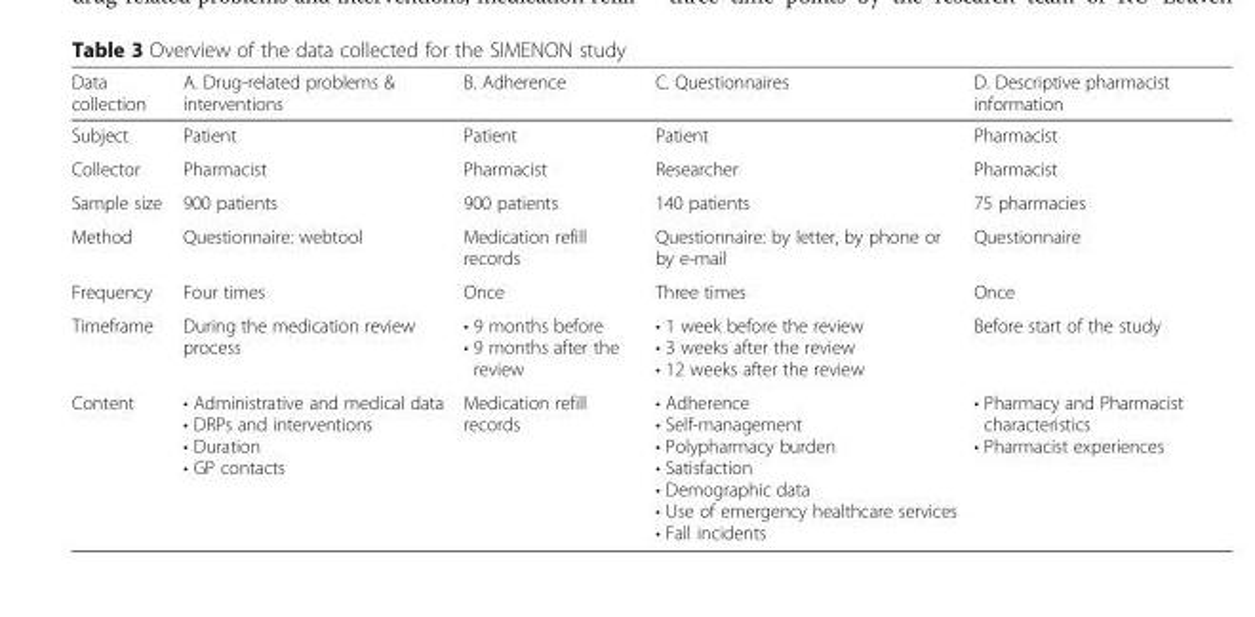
<table><thead><tr><td>Data collection</td><td>A. Drug-related problems &amp; interventions</td><td>B. Adherence</td><td>C. Questionnaires</td><td>D. Descriptive pharmacist information</td></tr></thead><tbody><tr><td>Subject</td><td>Patient</td><td>Patient</td><td>Patient</td><td>Pharmacist</td></tr><tr><td>Collector</td><td>Pharmacist</td><td>Pharmacist</td><td>Researcher</td><td>Pharmacist</td></tr><tr><td>Sample size</td><td>900 patients</td><td>900 patients</td><td>140 patients</td><td>75 pharmacies</td></tr><tr><td>Method</td><td>Questionnaire: webtool</td><td>Medication refill records</td><td>Questionnaire: by letter, by phone or by e-mail</td><td>Questionnaire</td></tr><tr><td>Frequency</td><td>Four times</td><td>Once</td><td>Three times</td><td>Once</td></tr><tr><td>Timeframe</td><td>During the medication review process</td><td>• 9 months before • 9 months after the review</td><td>• 1 week before the review • 3 weeks after the review • 12 weeks after the review</td><td>Before start of the study</td></tr><tr><td>Content</td><td>• Administrative and medical data • DRPs and interventions • Duration • GP contacts</td><td>Medication refill records</td><td>• Adherence • Self-management • Polypharmacy burden • Satisfaction • Demographic data • Use of emergency healthcare services • Fall incidents</td><td>• Pharmacy and Pharmacist characteristics • Pharmacist experiences</td></tr></tbody></table>